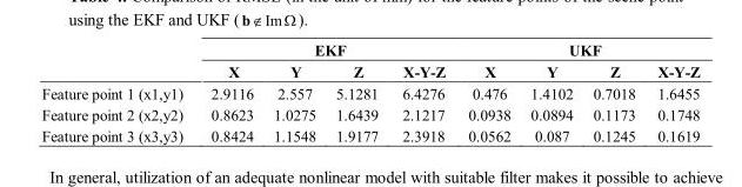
<table><thead><tr><td rowspan="2"></td><td colspan="4">EKF</td><td colspan="4">UKF</td></tr><tr><td>X</td><td>Y</td><td>Z</td><td>X-Y-Z</td><td>X</td><td>Y</td><td>Z</td><td>X-Y-Z</td></tr></thead><tbody><tr><td>Feature point 1 (x1,y1)</td><td>2.9116</td><td>2.557</td><td>5.1281</td><td>6.4276</td><td>0.476</td><td>1.4102</td><td>0.7018</td><td>1.6455</td></tr><tr><td>Feature point 2 (x2,y2)</td><td>0.8623</td><td>1.0275</td><td>1.6439</td><td>2.1217</td><td>0.0938</td><td>0.0894</td><td>0.1173</td><td>0.1748</td></tr><tr><td>Feature point 3 (x3,y3)</td><td>0.8424</td><td>1.1548</td><td>1.9177</td><td>2.3918</td><td>0.0562</td><td>0.087</td><td>0.1245</td><td>0.1619</td></tr></tbody></table>